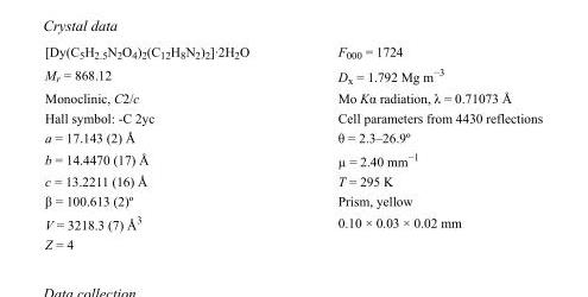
<table><tbody><tr><td>[Dy(C<sub>5</sub>H<sub>2.5</sub>N<sub>2</sub>O<sub>4</sub>)<sub>2</sub>(C<sub>12</sub>H<sub>8</sub>N<sub>2</sub>)<sub>2</sub>]·2H<sub>2</sub>O</td><td>F000 = 1724</td></tr><tr><td>M<sub>r</sub> = 868.12</td><td>D<sub>x</sub> = 1.792 Mg m<sup>−3</sup></td></tr><tr><td>Monoclinic, C2/c</td><td>Mo Kα radiation, λ = 0.71073 Å</td></tr><tr><td>Hall symbol: -C 2yc</td><td>Cell parameters from 4430 reflections</td></tr><tr><td>a = 17.143 (2) Å</td><td>θ = 2.3–26.9º</td></tr><tr><td>b = 14.4470 (17) Å</td><td>µ = 2.40 mm<sup>−1</sup></td></tr><tr><td>c = 13.2211 (16) Å</td><td>T = 295 K</td></tr><tr><td>β = 100.613 (2)º</td><td>Prism, yellow</td></tr><tr><td>V = 3218.3 (7) Å<sup>3</sup></td><td>0.10 × 0.03 × 0.02 mm</td></tr><tr><td>Z = 4</td><td></td></tr></tbody></table>